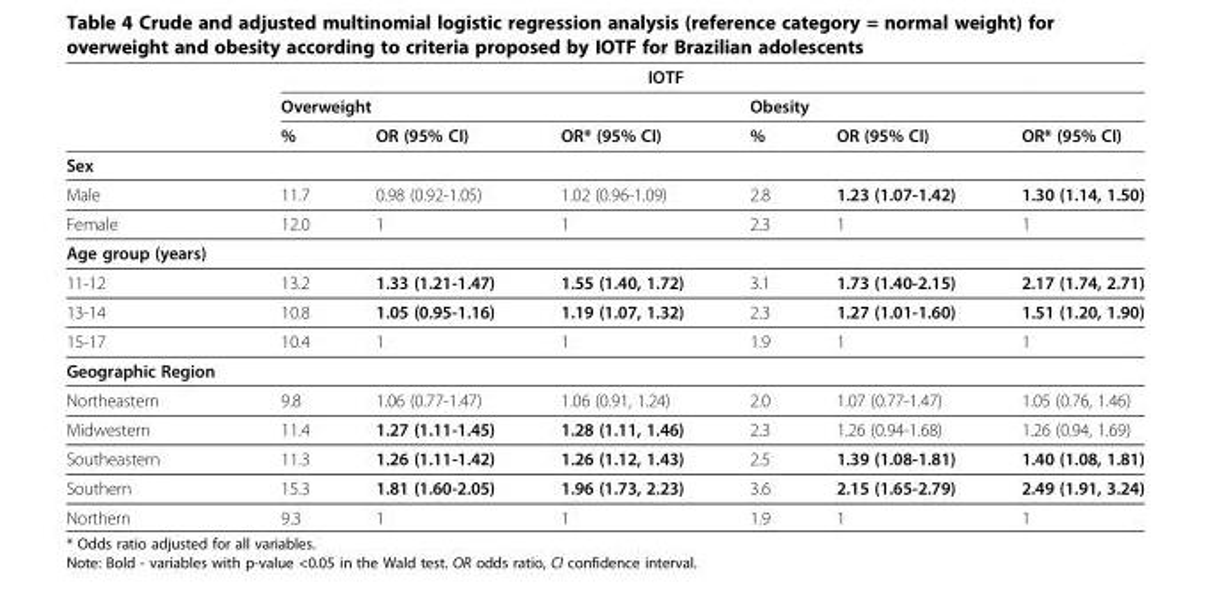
<table><thead><tr><td rowspan="3"></td><td></td><td colspan="4">IOTF</td><td></td></tr><tr><td colspan="3">Overweight</td><td colspan="3">Obesity</td></tr><tr><td>%</td><td>OR (95% CI)</td><td>OR* (95% CI)</td><td>%</td><td>OR (95% CI)</td><td>OR* (95% CI)</td></tr></thead><tbody><tr><td colspan="7">Sex</td></tr><tr><td>Male</td><td>11.7</td><td>0.98 (0.92-1.05)</td><td>1.02 (0.96-1.09)</td><td>2.8</td><td>1.23 (1.07-1.42)</td><td>1.30 (1.14, 1.50)</td></tr><tr><td>Female</td><td>12.0</td><td>1</td><td>1</td><td>2.3</td><td>1</td><td>1</td></tr><tr><td colspan="7">Age group (years)</td></tr><tr><td>11-12</td><td>13.2</td><td>1.33 (1.21-1.47)</td><td>1.55 (1.40, 1.72)</td><td>3.1</td><td>1.73 (1.40-2.15)</td><td>2.17 (1.74, 2.71)</td></tr><tr><td>13-14</td><td>10.8</td><td>1.05 (0.95-1.16)</td><td>1.19 (1.07, 1.32)</td><td>2.3</td><td>1.27 (1.01-1.60)</td><td>1.51 (1.20, 1.90)</td></tr><tr><td>15-17</td><td>10.4</td><td>1</td><td>1</td><td>1.9</td><td>1</td><td>1</td></tr><tr><td colspan="7">Geographic Region</td></tr><tr><td>Northeastern</td><td>9.8</td><td>1.06 (0.77-1.47)</td><td>1.06 (0.91, 1.24)</td><td>2.0</td><td>1.07 (0.77-1.47)</td><td>1.05 (0.76, 1.46)</td></tr><tr><td>Midwestern</td><td>11.4</td><td>1.27 (1.11-1.45)</td><td>1.28 (1.11, 1.46)</td><td>2.3</td><td>1.26 (0.94-1.68)</td><td>1.26 (0.94, 1.69)</td></tr><tr><td>Southeastern</td><td>11.3</td><td>1.26 (1.11-1.42)</td><td>1.26 (1.12, 1.43)</td><td>2.5</td><td>1.39 (1.08-1.81)</td><td>1.40 (1.08, 1.81)</td></tr><tr><td>Southern</td><td>15.3</td><td>1.81 (1.60-2.05)</td><td>1.96 (1.73, 2.23)</td><td>3.6</td><td>2.15 (1.65-2.79)</td><td>2.49 (1.91, 3.24)</td></tr><tr><td>Northern</td><td>9.3</td><td>1</td><td>1</td><td>1.9</td><td>1</td><td>1</td></tr></tbody></table>